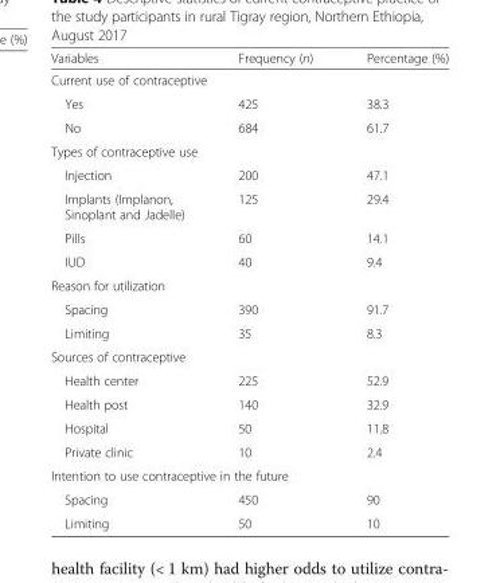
<table><thead><tr><td>Variables</td><td>Frequency (n)</td><td>Percentage (%)</td></tr></thead><tbody><tr><td colspan="3">Current use of contraceptive</td></tr><tr><td>Yes</td><td>425</td><td>38.3</td></tr><tr><td>No</td><td>684</td><td>61.7</td></tr><tr><td colspan="3">Types of contraceptive use</td></tr><tr><td>Injection</td><td>200</td><td>47.1</td></tr><tr><td>Implants (Implanon, Sinoplant and Jadelle)</td><td>125</td><td>29.4</td></tr><tr><td>Pills</td><td>60</td><td>14.1</td></tr><tr><td>IUD</td><td>40</td><td>9.4</td></tr><tr><td colspan="3">Reason for utilization</td></tr><tr><td>Spacing</td><td>390</td><td>91.7</td></tr><tr><td>Limiting</td><td>35</td><td>8.3</td></tr><tr><td colspan="3">Sources of contraceptive</td></tr><tr><td>Health center</td><td>225</td><td>52.9</td></tr><tr><td>Health post</td><td>140</td><td>32.9</td></tr><tr><td>Hospital</td><td>50</td><td>11.8</td></tr><tr><td>Private clinic</td><td>10</td><td>2.4</td></tr><tr><td colspan="3">Intention to use contraceptive in the future</td></tr><tr><td>Spacing</td><td>450</td><td>90</td></tr><tr><td>Limiting</td><td>50</td><td>10</td></tr></tbody></table>